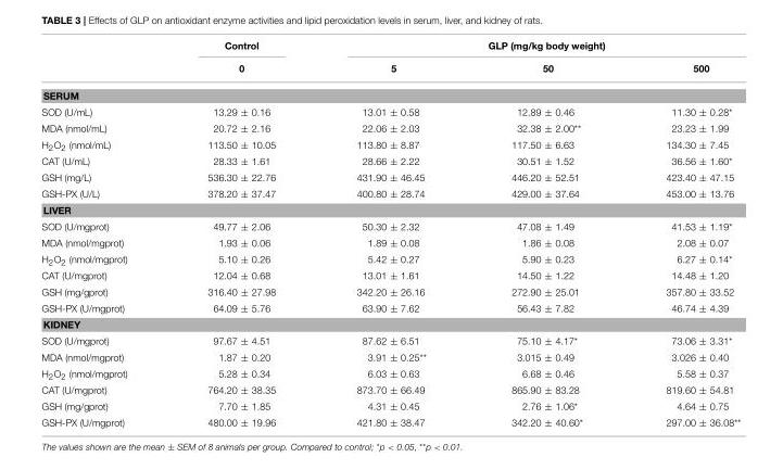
<table><thead><tr><td rowspan="2"></td><td rowspan="2">Control 0</td><td colspan="3">GLP (mg/kg body weight)</td></tr><tr><td>5</td><td>50</td><td>500</td></tr></thead><tbody><tr><td colspan="5">SERUM</td></tr><tr><td>SOD (U/mL)</td><td>13.29 ± 0.16</td><td>13.01 ± 0.58</td><td>12.89 ± 0.46</td><td>11.30 ± 0.28*</td></tr><tr><td>MDA (nmol/mL)</td><td>20.72 ± 2.16</td><td>22.06 ± 2.03</td><td>32.38 ± 2.00**</td><td>23.23 ± 1.99</td></tr><tr><td>H<sub>2</sub>O<sub>2</sub> (nmol/mL)</td><td>113.50 ± 10.05</td><td>113.80 ± 8.87</td><td>117.50 ± 6.63</td><td>134.30 ± 7.45</td></tr><tr><td>CAT (U/mL)</td><td>28.33 ± 1.61</td><td>28.66 ± 2.22</td><td>30.51 ± 1.52</td><td>36.56 ± 1.60*</td></tr><tr><td>GSH (mg/L)</td><td>536.30 ± 22.76</td><td>431.90 ± 46.45</td><td>446.20 ± 52.51</td><td>423.40 ± 47.15</td></tr><tr><td>GSH-PX (U/L)</td><td>378.20 ± 37.47</td><td>400.80 ± 28.74</td><td>429.00 ± 37.64</td><td>453.00 ± 13.76</td></tr><tr><td colspan="5">LIVER</td></tr><tr><td>SOD (U/mgprot)</td><td>49.77 ± 2.06</td><td>50.30 ± 2.32</td><td>47.08 ± 1.49</td><td>41.53 ± 1.19*</td></tr><tr><td>MDA (nmol/mgprot)</td><td>1.93 ± 0.06</td><td>1.89 ± 0.08</td><td>1.86 ± 0.08</td><td>2.08 ± 0.07</td></tr><tr><td>H<sub>2</sub>O<sub>2</sub> (nmol/mgprot)</td><td>5.10 ± 0.26</td><td>5.42 ± 0.27</td><td>5.90 ± 0.23</td><td>6.27 ± 0.14*</td></tr><tr><td>CAT (U/mgprot)</td><td>12.04 ± 0.68</td><td>13.01 ± 1.61</td><td>14.50 ± 1.22</td><td>14.48 ± 1.20</td></tr><tr><td>GSH (mg/gprot)</td><td>316.40 ± 27.98</td><td>342.20 ± 26.16</td><td>272.90 ± 25.01</td><td>357.80 ± 33.52</td></tr><tr><td>GSH-PX (U/mgprot)</td><td>64.09 ± 5.76</td><td>63.90 ± 7.62</td><td>56.43 ± 7.82</td><td>46.74 ± 4.39</td></tr><tr><td colspan="5">KIDNEY</td></tr><tr><td>SOD (U/mgprot)</td><td>97.67 ± 4.51</td><td>87.62 ± 6.51</td><td>75.10 ± 4.17*</td><td>73.06 ± 3.31*</td></tr><tr><td>MDA (nmol/mgprot)</td><td>1.87 ± 0.20</td><td>3.91 ± 0.25**</td><td>3.015 ± 0.49</td><td>3.026 ± 0.40</td></tr><tr><td>H<sub>2</sub>O<sub>2</sub> (nmol/mgprot)</td><td>5.28 ± 0.34</td><td>6.03 ± 0.63</td><td>6.68 ± 0.46</td><td>5.58 ± 0.37</td></tr><tr><td>CAT (U/mgprot)</td><td>764.20 ± 38.35</td><td>873.70 ± 66.49</td><td>865.90 ± 83.28</td><td>819.60 ± 54.81</td></tr><tr><td>GSH (mg/gprot)</td><td>7.70 ± 1.85</td><td>4.31 ± 0.45</td><td>2.76 ± 1.06*</td><td>4.64 ± 0.75</td></tr><tr><td>GSH-PX (U/mgprot)</td><td>480.00 ± 19.96</td><td>421.80 ± 38.47</td><td>342.20 ± 40.60*</td><td>297.00 ± 36.08**</td></tr></tbody></table>